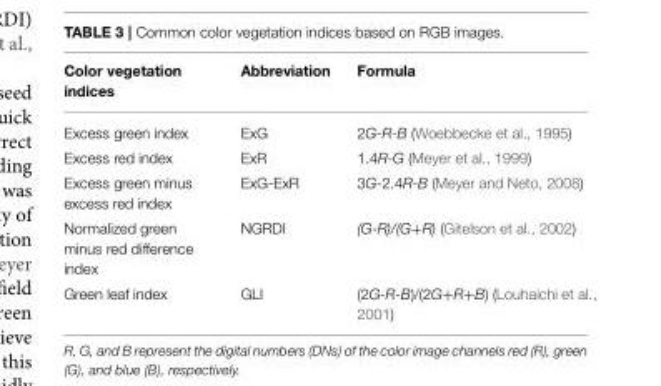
<table><thead><tr><td>Color vegetation indices</td><td>Abbreviation</td><td>Formula</td></tr></thead><tbody><tr><td>Excess green index</td><td>ExG</td><td>2G-R-B (Woebbecke et al., 1995)</td></tr><tr><td>Excess red index</td><td>ExR</td><td>1.4R-G (Meyer et al., 1999)</td></tr><tr><td>Excess green minus excess red index</td><td>ExG-ExR</td><td>3G-2.4R-B (Meyer and Neto, 2008)</td></tr><tr><td>Normalized green minus red difference index</td><td>NGRDI</td><td>(G-R)/(G+R) (Gitelson et al., 2002)</td></tr><tr><td>Green leaf index</td><td>GLI</td><td>(2G-R-B)/(2G+R+B) (Louhaichi et al., 2001)</td></tr></tbody></table>